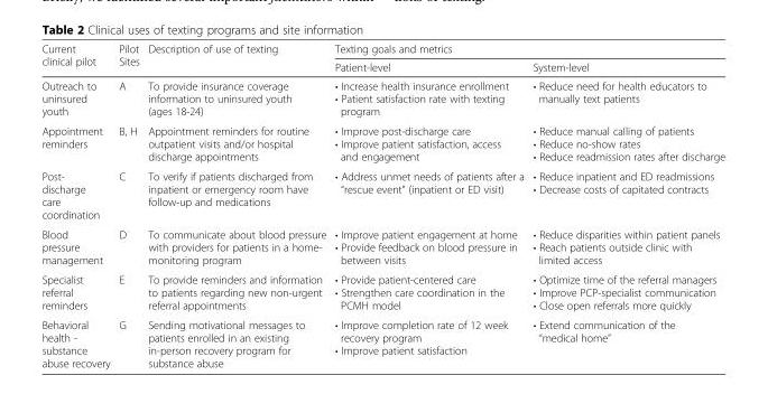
<table><thead><tr><td rowspan="2">Current clinical pilot</td><td rowspan="2">Pilot Sites</td><td rowspan="2">Description of use of texting</td><td colspan="2">Texting goals and metrics</td></tr><tr><td>Patient-level</td><td>System-level</td></tr></thead><tbody><tr><td>Outreach to uninsured youth</td><td>A</td><td>To provide insurance coverage information to uninsured youth (ages 18-24)</td><td>• Increase health insurance enrollment • Patient satisfaction rate with texting program</td><td>• Reduce need for health educators to manually text patients</td></tr><tr><td>Appointment reminders</td><td>B, H</td><td>Appointment reminders for routine outpatient visits and/or hospital discharge appointments</td><td>• Improve post-discharge care • Improve patient satisfaction, access and engagement</td><td>• Reduce manual calling of patients • Reduce no-show rates • Reduce readmission rates after discharge</td></tr><tr><td>Post- discharge care coordination</td><td>C</td><td>To verify if patients discharged from inpatient or emergency room have follow-up and medications</td><td>• Address unmet needs of patients after a “rescue event” (inpatient or ED visit)</td><td>• Reduce inpatient and ED readmissions • Decrease costs of capitated contracts</td></tr><tr><td>Blood pressure management</td><td>D</td><td>To communicate about blood pressure with providers for patients in a home- monitoring program</td><td>• Improve patient engagement at home • Provide feedback on blood pressure in between visits</td><td>• Reduce disparities within patient panels • Reach patients outside clinic with limited access</td></tr><tr><td>Specialist referral reminders</td><td>E</td><td>To provide reminders and information to patients regarding new non-urgent referral appointments</td><td>• Provide patient-centered care • Strengthen care coordination in the PCMH model</td><td>• Optimize time of the referral managers • Improve PCP-specialist communication • Close open referrals more quickly</td></tr><tr><td>Behavioral health - substance abuse recovery</td><td>G</td><td>Sending motivational messages to patients enrolled in an existing in-person recovery program for substance abuse</td><td>• Improve completion rate of 12 week recovery program • Improve patient satisfaction</td><td>• Extend communication of the “medical home”</td></tr></tbody></table>